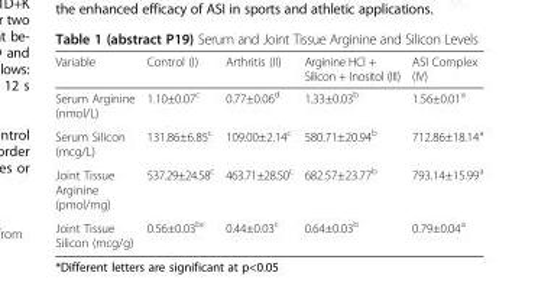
<table><thead><tr><td>Variable</td><td>Control (I)</td><td>Arthritis (II)</td><td>Arginine HCl + Silicon + Inositol (III)</td><td>ASI Complex (IV)</td></tr></thead><tbody><tr><td>Serum Arginine (nmol/L)</td><td>1.10±0.07<sup>c</sup></td><td>0.77±0.06<sup>d</sup></td><td>1.33±0.03<sup>b</sup></td><td>1.56±0.01<sup>a</sup></td></tr><tr><td>Serum Silicon (mcg/L)</td><td>131.86±6.85<sup>c</sup></td><td>109.00±2.14<sup>c</sup></td><td>580.71±20.94<sup>b</sup></td><td>712.86±18.14<sup>a</sup></td></tr><tr><td>Joint Tissue Arginine (pmol/mg)</td><td>537.29±24.58<sup>c</sup></td><td>463.71±28.50<sup>c</sup></td><td>682.57±23.77<sup>b</sup></td><td>793.14±15.99<sup>a</sup></td></tr><tr><td>Joint Tissue Silicon (mcg/g)</td><td>0.56±0.03<sup>bc</sup></td><td>0.44±0.03<sup>c</sup></td><td>0.64±0.03<sup>b</sup></td><td>0.79±0.04<sup>a</sup></td></tr></tbody></table>